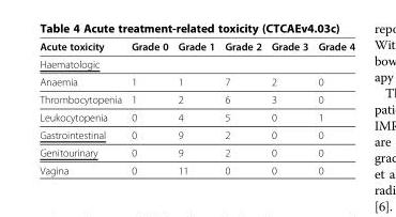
<table><thead><tr><td>Acute toxicity</td><td>Grade 0</td><td>Grade 1</td><td>Grade 2</td><td>Grade 3</td><td>Grade 4</td></tr></thead><tbody><tr><td colspan="6">Haematologic</td></tr><tr><td>Anaemia</td><td>1</td><td>1</td><td>7</td><td>2</td><td>0</td></tr><tr><td>Thrombocytopenia</td><td>1</td><td>2</td><td>6</td><td>3</td><td>0</td></tr><tr><td>Leukocytopenia</td><td>0</td><td>4</td><td>5</td><td>0</td><td>1</td></tr><tr><td>Gastrointestinal</td><td>0</td><td>9</td><td>2</td><td>0</td><td>0</td></tr><tr><td>Genitourinary</td><td>0</td><td>9</td><td>2</td><td>0</td><td>0</td></tr><tr><td>Vagina</td><td>0</td><td>11</td><td>0</td><td>0</td><td>0</td></tr></tbody></table>